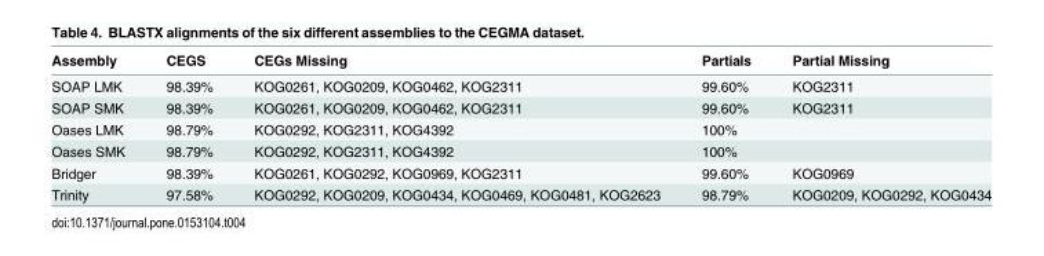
<table><thead><tr><td>Assembly</td><td>CEGS</td><td>CEGs Missing</td><td>Partials</td><td>Partial Missing</td></tr></thead><tbody><tr><td>SOAP LMK</td><td>98.39%</td><td>KOG0261, KOG0209, KOG0462, KOG2311</td><td>99.60%</td><td>KOG2311</td></tr><tr><td>SOAP SMK</td><td>98.39%</td><td>KOG0261, KOG0209, KOG0462, KOG2311</td><td>99.60%</td><td>KOG2311</td></tr><tr><td>Oases LMK</td><td>98.79%</td><td>KOG0292, KOG2311, KOG4392</td><td>100%</td><td></td></tr><tr><td>Oases SMK</td><td>98.79%</td><td>KOG0292, KOG2311, KOG4392</td><td>100%</td><td></td></tr><tr><td>Bridger</td><td>98.39%</td><td>KOG0261, KOG0292, KOG0969, KOG2311</td><td>99.60%</td><td>KOG0969</td></tr><tr><td>Trinity</td><td>97.58%</td><td>KOG0292, KOG0209, KOG0434, KOG0469, KOG0481, KOG2623</td><td>98.79%</td><td>KOG0209, KOG0292, KOG0434</td></tr></tbody></table>